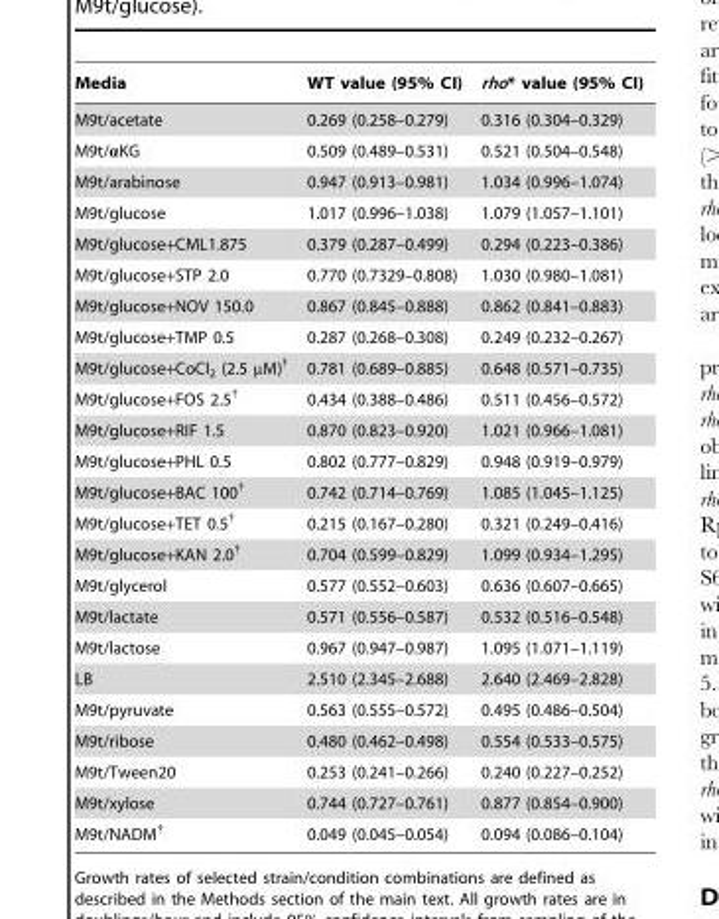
<table><thead><tr><td>Media</td><td>WT value (95% CI)</td><td>rho* value (95% CI)</td></tr></thead><tbody><tr><td>M9t/acetate</td><td>0.269 (0.258–0.279)</td><td>0.316 (0.304–0.329)</td></tr><tr><td>M9t/αKG</td><td>0.509 (0.489–0.531)</td><td>0.521 (0.504–0.548)</td></tr><tr><td>M9t/arabinose</td><td>0.947 (0.913–0.981)</td><td>1.034 (0.996–1.074)</td></tr><tr><td>M9t/glucose</td><td>1.017 (0.996–1.038)</td><td>1.079 (1.057–1.101)</td></tr><tr><td>M9t/glucose+CML1.875</td><td>0.379 (0.287–0.499)</td><td>0.294 (0.223–0.386)</td></tr><tr><td>M9t/glucose+STP 2.0</td><td>0.770 (0.7329–0.808)</td><td>1.030 (0.980–1.081)</td></tr><tr><td>M9t/glucose+NOV 150.0</td><td>0.867 (0.845–0.888)</td><td>0.862 (0.841–0.883)</td></tr><tr><td>M9t/glucose+TMP 0.5</td><td>0.287 (0.268–0.308)</td><td>0.249 (0.232–0.267)</td></tr><tr><td>M9t/glucose+CoCl<sub>2</sub> (2.5 µM)†</td><td>0.781 (0.689–0.885)</td><td>0.648 (0.571–0.735)</td></tr><tr><td>M9t/glucose+FOS 2.5†</td><td>0.434 (0.388–0.486)</td><td>0.511 (0.456–0.572)</td></tr><tr><td>M9t/glucose+RIF 1.5</td><td>0.870 (0.823–0.920)</td><td>1.021 (0.966–1.081)</td></tr><tr><td>M9t/glucose+PHL 0.5</td><td>0.802 (0.777–0.829)</td><td>0.948 (0.919–0.979)</td></tr><tr><td>M9t/glucose+BAC 100†</td><td>0.742 (0.714–0.769)</td><td>1.085 (1.045–1.125)</td></tr><tr><td>M9t/glucose+TET 0.5†</td><td>0.215 (0.167–0.280)</td><td>0.321 (0.249–0.416)</td></tr><tr><td>M9t/glucose+KAN 2.0†</td><td>0.704 (0.599–0.829)</td><td>1.099 (0.934–1.295)</td></tr><tr><td>M9t/glycerol</td><td>0.577 (0.552–0.603)</td><td>0.636 (0.607–0.665)</td></tr><tr><td>M9t/lactate</td><td>0.571 (0.556–0.587)</td><td>0.532 (0.516–0.548)</td></tr><tr><td>M9t/lactose</td><td>0.967 (0.947–0.987)</td><td>1.095 (1.071–1.119)</td></tr><tr><td>LB</td><td>2.510 (2.345–2.688)</td><td>2.640 (2.469–2.828)</td></tr><tr><td>M9t/pyruvate</td><td>0.563 (0.555–0.572)</td><td>0.495 (0.486–0.504)</td></tr><tr><td>M9t/ribose</td><td>0.480 (0.462–0.498)</td><td>0.554 (0.533–0.575)</td></tr><tr><td>M9t/Tween20</td><td>0.253 (0.241–0.266)</td><td>0.240 (0.227–0.252)</td></tr><tr><td>M9t/xylose</td><td>0.744 (0.727–0.761)</td><td>0.877 (0.854–0.900)</td></tr><tr><td>M9t/NADM†</td><td>0.049 (0.045–0.054)</td><td>0.094 (0.086–0.104)</td></tr></tbody></table>